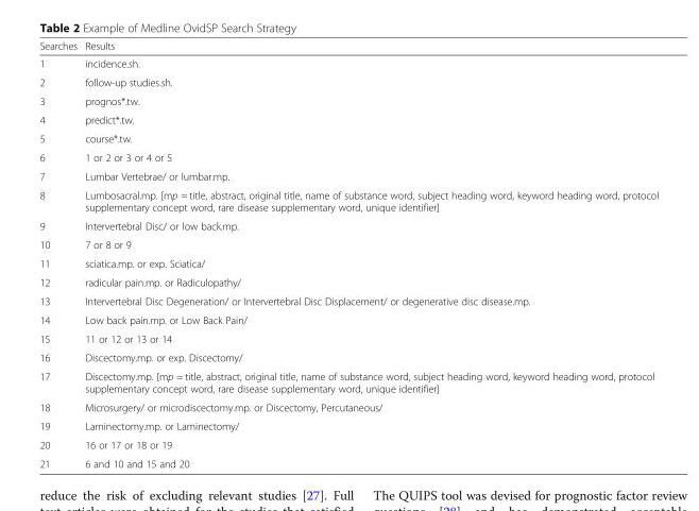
<table><thead><tr><td>Searches</td><td>Results</td></tr></thead><tbody><tr><td>1</td><td>incidence.sh.</td></tr><tr><td>2</td><td>follow-up studies.sh.</td></tr><tr><td>3</td><td>prognos*.tw.</td></tr><tr><td>4</td><td>predict*.tw.</td></tr><tr><td>5</td><td>course*.tw.</td></tr><tr><td>6</td><td>1 or 2 or 3 or 4 or 5</td></tr><tr><td>7</td><td>Lumbar Vertebrae/ or lumbar.mp.</td></tr><tr><td>8</td><td>Lumbosacral.mp. [mp = title, abstract, original title, name of substance word, subject heading word, keyword heading word, protocol supplementary concept word, rare disease supplementary word, unique identifier]</td></tr><tr><td>9</td><td>Intervertebral Disc/ or low back.mp.</td></tr><tr><td>10</td><td>7 or 8 or 9</td></tr><tr><td>11</td><td>sciatica.mp. or exp. Sciatica/</td></tr><tr><td>12</td><td>radicular pain.mp. or Radiculopathy/</td></tr><tr><td>13</td><td>Intervertebral Disc Degeneration/ or Intervertebral Disc Displacement/ or degenerative disc disease.mp.</td></tr><tr><td>14</td><td>Low back pain.mp. or Low Back Pain/</td></tr><tr><td>15</td><td>11 or 12 or 13 or 14</td></tr><tr><td>16</td><td>Discectomy.mp. or exp. Discectomy/</td></tr><tr><td>17</td><td>Discectomy.mp. [mp = title, abstract, original title, name of substance word, subject heading word, keyword heading word, protocol supplementary concept word, rare disease supplementary word, unique identifier]</td></tr><tr><td>18</td><td>Microsurgery/ or microdiscectomy.mp. or Discectomy, Percutaneous/</td></tr><tr><td>19</td><td>Laminectomy.mp. or Laminectomy/</td></tr><tr><td>20</td><td>16 or 17 or 18 or 19</td></tr><tr><td>21</td><td>6 and 10 and 15 and 20</td></tr></tbody></table>